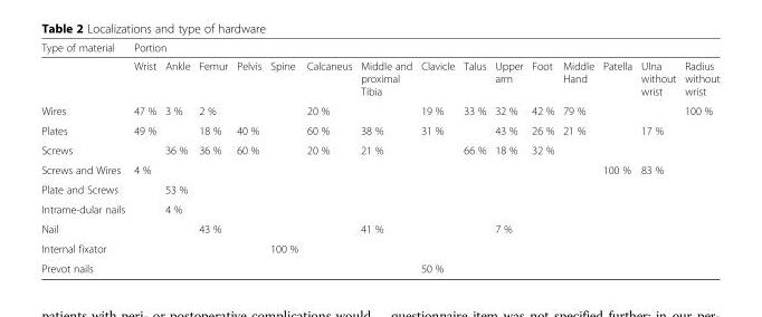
<table><thead><tr><td rowspan="2">Type of material</td><td colspan="15">Portion</td></tr><tr><td>Wrist</td><td>Ankle</td><td>Femur</td><td>Pelvis</td><td>Spine</td><td>Calcaneus</td><td>Middle and proximal Tibia</td><td>Clavicle</td><td>Talus</td><td>Upper arm</td><td>Foot</td><td>Middle Hand</td><td>Patella</td><td>Ulna without wrist</td><td>Radius without wrist</td></tr></thead><tbody><tr><td>Wires</td><td>47 %</td><td>3 %</td><td>2 %</td><td></td><td></td><td>20 %</td><td></td><td>19 %</td><td>33 %</td><td>32 %</td><td>42 %</td><td>79 %</td><td></td><td></td><td>100 %</td></tr><tr><td>Plates</td><td>49 %</td><td></td><td>18 %</td><td>40 %</td><td></td><td>60 %</td><td>38 %</td><td>31 %</td><td></td><td>43 %</td><td>26 %</td><td>21 %</td><td></td><td>17 %</td><td></td></tr><tr><td>Screws</td><td></td><td>36 %</td><td>36 %</td><td>60 %</td><td></td><td>20 %</td><td>21 %</td><td></td><td>66 %</td><td>18 %</td><td>32 %</td><td></td><td></td><td></td><td></td></tr><tr><td>Screws and Wires</td><td>4 %</td><td></td><td></td><td></td><td></td><td></td><td></td><td></td><td></td><td></td><td></td><td></td><td>100 %</td><td>83 %</td><td></td></tr><tr><td>Plate and Screws</td><td></td><td>53 %</td><td></td><td></td><td></td><td></td><td></td><td></td><td></td><td></td><td></td><td></td><td></td><td></td><td></td></tr><tr><td>Intrame-dular nails</td><td></td><td>4 %</td><td></td><td></td><td></td><td></td><td></td><td></td><td></td><td></td><td></td><td></td><td></td><td></td><td></td></tr><tr><td>Nail</td><td></td><td></td><td>43 %</td><td></td><td></td><td></td><td>41 %</td><td></td><td></td><td>7 %</td><td></td><td></td><td></td><td></td><td></td></tr><tr><td>Internal fixator</td><td></td><td></td><td></td><td></td><td>100 %</td><td></td><td></td><td></td><td></td><td></td><td></td><td></td><td></td><td></td><td></td></tr><tr><td>Prevot nails</td><td></td><td></td><td></td><td></td><td></td><td></td><td></td><td>50 %</td><td></td><td></td><td></td><td></td><td></td><td></td><td></td></tr></tbody></table>